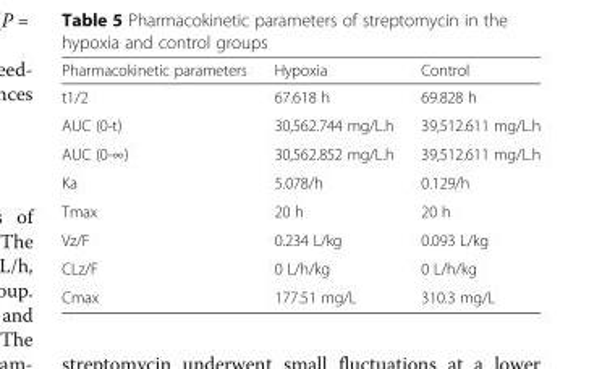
<table><thead><tr><td>Pharmacokinetic parameters</td><td>Hypoxia</td><td>Control</td></tr></thead><tbody><tr><td>t1/2</td><td>67.618 h</td><td>69.828 h</td></tr><tr><td>AUC (0-t)</td><td>30,562.744 mg/L.h</td><td>39,512.611 mg/L.h</td></tr><tr><td>AUC (0-∞)</td><td>30,562.852 mg/L.h</td><td>39,512.611 mg/L.h</td></tr><tr><td>Ka</td><td>5.078/h</td><td>0.129/h</td></tr><tr><td>Tmax</td><td>20 h</td><td>20 h</td></tr><tr><td>Vz/F</td><td>0.234 L/kg</td><td>0.093 L/kg</td></tr><tr><td>CLz/F</td><td>0 L/h/kg</td><td>0 L/h/kg</td></tr><tr><td>Cmax</td><td>177.51 mg/L</td><td>310.3 mg/L</td></tr></tbody></table>